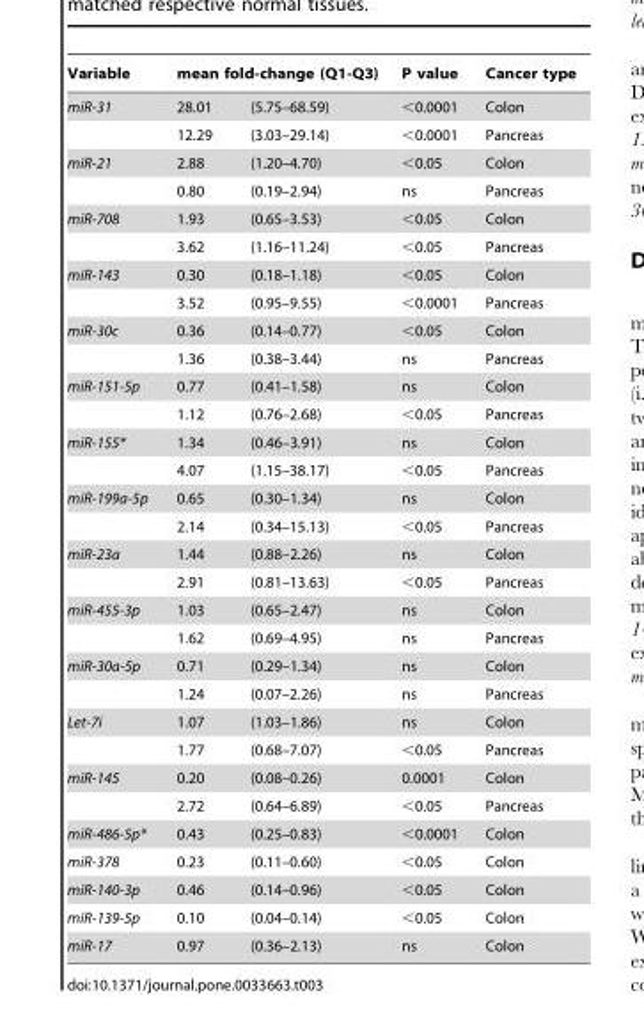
<table><thead><tr><td rowspan="2">Variable miR-31</td><td colspan="2">mean fold-change (Q1-Q3)</td><td rowspan="2">P value &lt;0.0001</td><td rowspan="2">Cancer type Colon</td></tr><tr><td>28.01</td><td>(5.75–68.59)</td></tr></thead><tbody><tr><td></td><td>12.29</td><td>(3.03–29.14)</td><td>&lt;0.0001</td><td>Pancreas</td></tr><tr><td rowspan="2">miR-21</td><td>2.88</td><td>(1.20–4.70)</td><td>&lt;0.05</td><td>Colon</td></tr><tr><td>0.80</td><td>(0.19–2.94)</td><td>ns</td><td>Pancreas</td></tr><tr><td rowspan="2">miR-708</td><td>1.93</td><td>(0.65–3.53)</td><td>&lt;0.05</td><td>Colon</td></tr><tr><td>3.62</td><td>(1.16–11.24)</td><td>&lt;0.05</td><td>Pancreas</td></tr><tr><td rowspan="2">miR-143</td><td>0.30</td><td>(0.18–1.18)</td><td>&lt;0.05</td><td>Colon</td></tr><tr><td>3.52</td><td>(0.95–9.55)</td><td>&lt;0.0001</td><td>Pancreas</td></tr><tr><td rowspan="2">miR-30c</td><td>0.36</td><td>(0.14–0.77)</td><td>&lt;0.05</td><td>Colon</td></tr><tr><td>1.36</td><td>(0.38–3.44)</td><td>ns</td><td>Pancreas</td></tr><tr><td rowspan="2">miR-151-5p</td><td>0.77</td><td>(0.41–1.58)</td><td>ns</td><td>Colon</td></tr><tr><td>1.12</td><td>(0.76–2.68)</td><td>&lt;0.05</td><td>Pancreas</td></tr><tr><td rowspan="2">miR-155*</td><td>1.34</td><td>(0.46–3.91)</td><td>ns</td><td>Colon</td></tr><tr><td>4.07</td><td>(1.15–38.17)</td><td>&lt;0.05</td><td>Pancreas</td></tr><tr><td rowspan="2">miR-199a-5p</td><td>0.65</td><td>(0.30–1.34)</td><td>ns</td><td>Colon</td></tr><tr><td>2.14</td><td>(0.34–15.13)</td><td>&lt;0.05</td><td>Pancreas</td></tr><tr><td rowspan="2">miR-23a</td><td>1.44</td><td>(0.88–2.26)</td><td>ns</td><td>Colon</td></tr><tr><td>2.91</td><td>(0.81–13.63)</td><td>&lt;0.05</td><td>Pancreas</td></tr><tr><td rowspan="2">miR-455-3p</td><td>1.03</td><td>(0.65–2.47)</td><td>ns</td><td>Colon</td></tr><tr><td>1.62</td><td>(0.69–4.95)</td><td>ns</td><td>Pancreas</td></tr><tr><td rowspan="2">miR-30a-5p</td><td>0.71</td><td>(0.29–1.34)</td><td>ns</td><td>Colon</td></tr><tr><td>1.24</td><td>(0.07–2.26)</td><td>ns</td><td>Pancreas</td></tr><tr><td rowspan="2">Let-7i</td><td>1.07</td><td>(1.03–1.86)</td><td>ns</td><td>Colon</td></tr><tr><td>1.77</td><td>(0.68–7.07)</td><td>&lt;0.05</td><td>Pancreas</td></tr><tr><td rowspan="2">miR-145</td><td>0.20</td><td>(0.08–0.26)</td><td>0.0001</td><td>Colon</td></tr><tr><td>2.72</td><td>(0.64–6.89)</td><td>&lt;0.05</td><td>Pancreas</td></tr><tr><td>miR-486-5p*</td><td>0.43</td><td>(0.25–0.83)</td><td>&lt;0.0001</td><td>Colon</td></tr><tr><td>miR-378</td><td>0.23</td><td>(0.11–0.60)</td><td>&lt;0.05</td><td>Colon</td></tr><tr><td>miR-140-3p</td><td>0.46</td><td>(0.14–0.96)</td><td>&lt;0.05</td><td>Colon</td></tr><tr><td>miR-139-5p</td><td>0.10</td><td>(0.04–0.14)</td><td>&lt;0.05</td><td>Colon</td></tr><tr><td>miR-17</td><td>0.97</td><td>(0.36–2.13)</td><td>ns</td><td>Colon</td></tr></tbody></table>